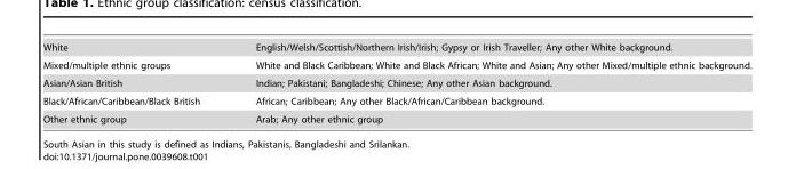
<table><tbody><tr><td>White</td><td>English/Welsh/Scottish/Northern Irish/Irish; Gypsy or Irish Traveller; Any other White background.</td></tr><tr><td>Mixed/multiple ethnic groups</td><td>White and Black Caribbean; White and Black African; White and Asian; Any other Mixed/multiple ethnic background.</td></tr><tr><td>Asian/Asian British</td><td>Indian; Pakistani; Bangladeshi; Chinese; Any other Asian background.</td></tr><tr><td>Black/African/Caribbean/Black British</td><td>African; Caribbean; Any other Black/African/Caribbean background.</td></tr><tr><td>Other ethnic group</td><td>Arab; Any other ethnic group</td></tr></tbody></table>